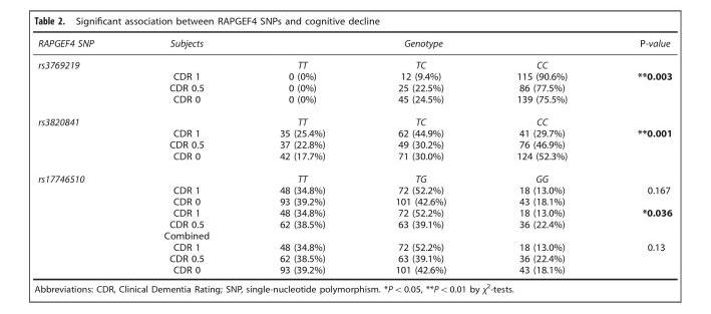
<table><thead><tr><td rowspan="2">RAPGEF4 SNP rs3769219</td><td rowspan="2">Subjects</td><td colspan="3">Genotype</td><td rowspan="2">P-value</td></tr><tr><td>TT</td><td>TC</td><td>CC</td></tr></thead><tbody><tr><td></td><td>CDR 1</td><td>0 (0%)</td><td>12 (9.4%)</td><td>115 (90.6%)</td><td>**0.003</td></tr><tr><td></td><td>CDR 0.5</td><td>0 (0%)</td><td>25 (22.5%)</td><td>86 (77.5%)</td><td></td></tr><tr><td></td><td>CDR 0</td><td>0 (0%)</td><td>45 (24.5%)</td><td>139 (75.5%)</td><td></td></tr><tr><td rowspan="4">rs3820841</td><td></td><td>TT</td><td>TC</td><td>CC</td><td></td></tr><tr><td>CDR 1</td><td>35 (25.4%)</td><td>62 (44.9%)</td><td>41 (29.7%)</td><td>**0.001</td></tr><tr><td>CDR 0.5</td><td>37 (22.8%)</td><td>49 (30.2%)</td><td>76 (46.9%)</td><td></td></tr><tr><td>CDR 0</td><td>42 (17.7%)</td><td>71 (30.0%)</td><td>124 (52.3%)</td><td></td></tr><tr><td rowspan="9">rs17746510</td><td></td><td>TT</td><td>TG</td><td>GG</td><td></td></tr><tr><td>CDR 1</td><td>48 (34.8%)</td><td>72 (52.2%)</td><td>18 (13.0%)</td><td>0.167</td></tr><tr><td>CDR 0</td><td>93 (39.2%)</td><td>101 (42.6%)</td><td>43 (18.1%)</td><td></td></tr><tr><td>CDR 1</td><td>48 (34.8%)</td><td>72 (52.2%)</td><td>18 (13.0%)</td><td>*0.036</td></tr><tr><td>CDR 0.5</td><td>62 (38.5%)</td><td>63 (39.1%)</td><td>36 (22.4%)</td><td></td></tr><tr><td>Combined</td><td></td><td></td><td></td><td></td></tr><tr><td>CDR 1</td><td>48 (34.8%)</td><td>72 (52.2%)</td><td>18 (13.0%)</td><td>0.13</td></tr><tr><td>CDR 0.5</td><td>62 (38.5%)</td><td>63 (39.1%)</td><td>36 (22.4%)</td><td></td></tr><tr><td>CDR 0</td><td>93 (39.2%)</td><td>101 (42.6%)</td><td>43 (18.1%)</td><td></td></tr></tbody></table>